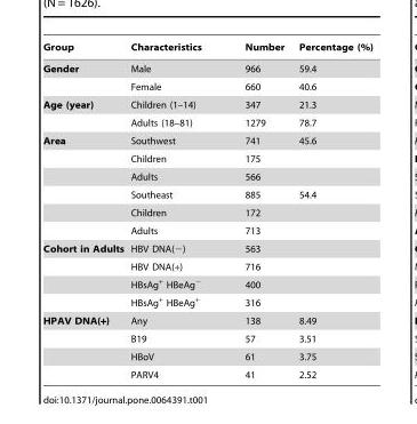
<table><thead><tr><td>Group</td><td>Characteristics</td><td>Number</td><td>Percentage (%)</td></tr></thead><tbody><tr><td rowspan="2">Gender</td><td>Male</td><td>966</td><td>59.4</td></tr><tr><td>Female</td><td>660</td><td>40.6</td></tr><tr><td rowspan="2">Age (year)</td><td>Children (1–14)</td><td>347</td><td>21.3</td></tr><tr><td>Adults (18–81)</td><td>1279</td><td>78.7</td></tr><tr><td rowspan="6">Area</td><td>Southwest</td><td>741</td><td>45.6</td></tr><tr><td>Children</td><td>175</td><td></td></tr><tr><td>Adults</td><td>566</td><td></td></tr><tr><td>Southeast</td><td>885</td><td>54.4</td></tr><tr><td>Children</td><td>172</td><td></td></tr><tr><td>Adults</td><td>713</td><td></td></tr><tr><td rowspan="4">Cohort in Adults</td><td>HBV DNA(−)</td><td>563</td><td></td></tr><tr><td>HBV DNA(+)</td><td>716</td><td></td></tr><tr><td>HBsAg<sup>+</sup> HBeAg<sup>−</sup></td><td>400</td><td></td></tr><tr><td>HBsAg<sup>+</sup> HBeAg<sup>+</sup></td><td>316</td><td></td></tr><tr><td rowspan="4">HPAV DNA(+)</td><td>Any</td><td>138</td><td>8.49</td></tr><tr><td>B19</td><td>57</td><td>3.51</td></tr><tr><td>HBoV</td><td>61</td><td>3.75</td></tr><tr><td>PARV4</td><td>41</td><td>2.52</td></tr></tbody></table>